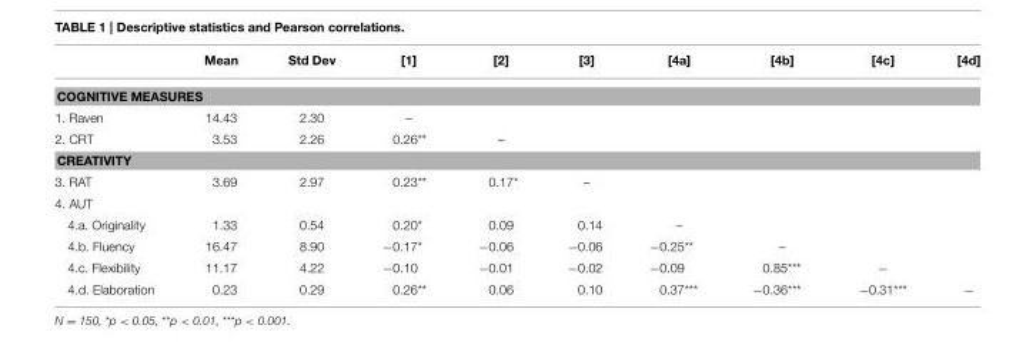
<table><thead><tr><td></td><td>Mean</td><td>Std Dev</td><td>[1]</td><td>[2]</td><td>[3]</td><td>[4a]</td><td>[4b]</td><td>[4c]</td><td>[4d]</td></tr></thead><tbody><tr><td colspan="10">COGNITIVE MEASURES</td></tr><tr><td>1. Raven</td><td>14.43</td><td>2.30</td><td>–</td><td></td><td></td><td></td><td></td><td></td><td></td></tr><tr><td>2. CRT</td><td>3.53</td><td>2.26</td><td>0.26**</td><td>–</td><td></td><td></td><td></td><td></td><td></td></tr><tr><td colspan="10">CREATIVITY</td></tr><tr><td>3. RAT</td><td>3.69</td><td>2.97</td><td>0.23**</td><td>0.17*</td><td>–</td><td></td><td></td><td></td><td></td></tr><tr><td colspan="10">4. AUT</td></tr><tr><td>4.a. Originality</td><td>1.33</td><td>0.54</td><td>0.20*</td><td>0.09</td><td>0.14</td><td>–</td><td></td><td></td><td></td></tr><tr><td>4.b. Fluency</td><td>16.47</td><td>8.90</td><td>−0.17*</td><td>−0.06</td><td>−0.06</td><td>−0.25**</td><td>–</td><td></td><td></td></tr><tr><td>4.c. Flexibility</td><td>11.17</td><td>4.22</td><td>−0.10</td><td>−0.01</td><td>−0.02</td><td>−0.09</td><td>0.85***</td><td>−</td><td></td></tr><tr><td>4.d. Elaboration</td><td>0.23</td><td>0.29</td><td>0.26**</td><td>0.06</td><td>0.10</td><td>0.37***</td><td>−0.36***</td><td>−0.31***</td><td>−</td></tr></tbody></table>